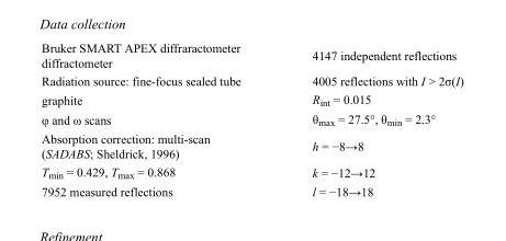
<table><tbody><tr><td>Bruker SMART APEX diffraractometer diffractometer</td><td>4147 independent reflections</td></tr><tr><td>Radiation source: fine-focus sealed tube</td><td>4005 reflections with I &gt; 2σ(I)</td></tr><tr><td>graphite</td><td>R<sub>int</sub> = 0.015</td></tr><tr><td>φ and ω scans</td><td>θ<sub>max</sub> = 27.5°, θ<sub>min</sub> = 2.3°</td></tr><tr><td>Absorption correction: multi-scan (SADABS; Sheldrick, 1996)</td><td>h = −8→8</td></tr><tr><td>T<sub>min</sub> = 0.429, T<sub>max</sub> = 0.868</td><td>k = −12→12</td></tr><tr><td>7952 measured reflections</td><td>l = −18→18</td></tr></tbody></table>